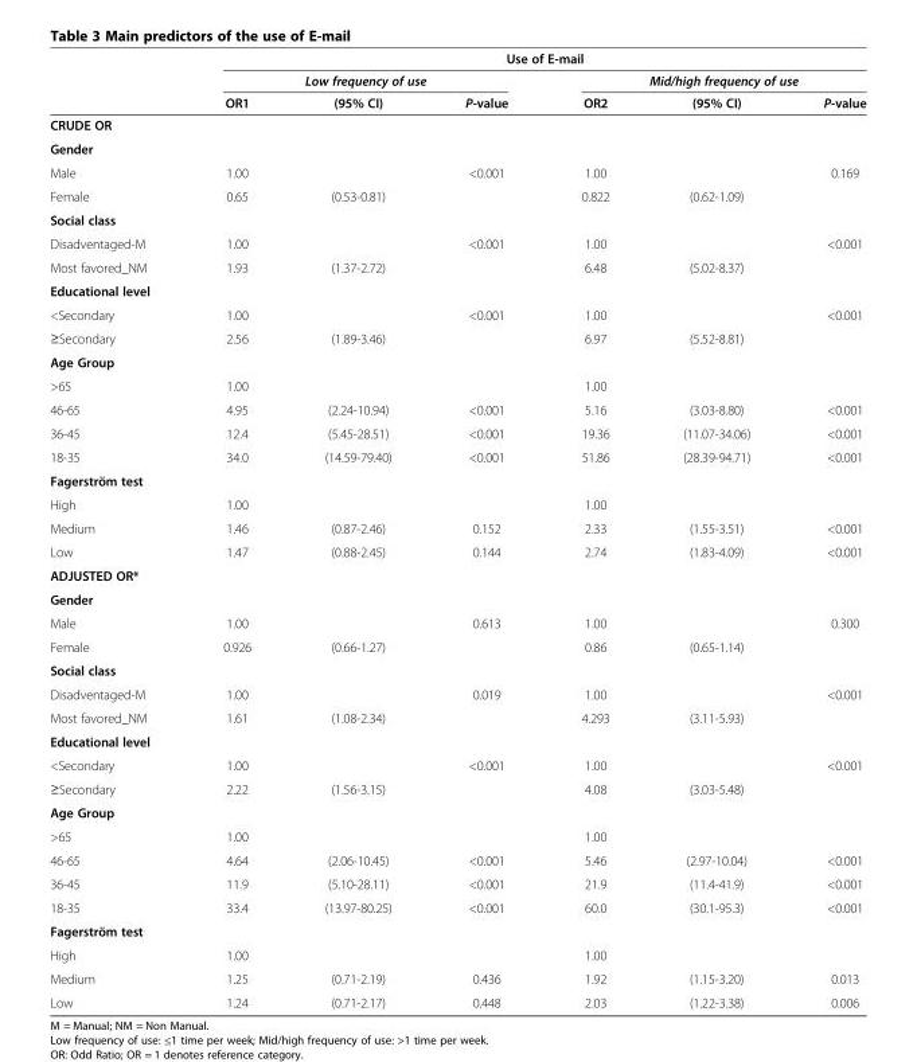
<table><thead><tr><td rowspan="3"></td><td colspan="6">Use of E-mail</td></tr><tr><td colspan="3">Low frequency of use</td><td colspan="3">Mid/high frequency of use</td></tr><tr><td>OR1</td><td>(95% CI)</td><td>P-value</td><td>OR2</td><td>(95% CI)</td><td>P-value</td></tr></thead><tbody><tr><td colspan="7">CRUDE OR</td></tr><tr><td colspan="7">Gender</td></tr><tr><td>Male</td><td>1.00</td><td></td><td>&lt;0.001</td><td>1.00</td><td></td><td>0.169</td></tr><tr><td>Female</td><td>0.65</td><td>(0.53-0.81)</td><td></td><td>0.822</td><td>(0.62-1.09)</td><td></td></tr><tr><td colspan="7">Social class</td></tr><tr><td>Disadventaged-M</td><td>1.00</td><td></td><td>&lt;0.001</td><td>1.00</td><td></td><td>&lt;0.001</td></tr><tr><td>Most favored_NM</td><td>1.93</td><td>(1.37-2.72)</td><td></td><td>6.48</td><td>(5.02-8.37)</td><td></td></tr><tr><td colspan="7">Educational level</td></tr><tr><td>&lt;Secondary</td><td>1.00</td><td></td><td>&lt;0.001</td><td>1.00</td><td></td><td>&lt;0.001</td></tr><tr><td>≥Secondary</td><td>2.56</td><td>(1.89-3.46)</td><td></td><td>6.97</td><td>(5.52-8.81)</td><td></td></tr><tr><td colspan="7">Age Group</td></tr><tr><td>&gt;65</td><td>1.00</td><td></td><td></td><td>1.00</td><td></td><td></td></tr><tr><td>46-65</td><td>4.95</td><td>(2.24-10.94)</td><td>&lt;0.001</td><td>5.16</td><td>(3.03-8.80)</td><td>&lt;0.001</td></tr><tr><td>36-45</td><td>12.4</td><td>(5.45-28.51)</td><td>&lt;0.001</td><td>19.36</td><td>(11.07-34.06)</td><td>&lt;0.001</td></tr><tr><td>18-35</td><td>34.0</td><td>(14.59-79.40)</td><td>&lt;0.001</td><td>51.86</td><td>(28.39-94.71)</td><td>&lt;0.001</td></tr><tr><td colspan="7">Fagerström test</td></tr><tr><td>High</td><td>1.00</td><td></td><td></td><td>1.00</td><td></td><td></td></tr><tr><td>Medium</td><td>1.46</td><td>(0.87-2.46)</td><td>0.152</td><td>2.33</td><td>(1.55-3.51)</td><td>&lt;0.001</td></tr><tr><td>Low</td><td>1.47</td><td>(0.88-2.45)</td><td>0.144</td><td>2.74</td><td>(1.83-4.09)</td><td>&lt;0.001</td></tr><tr><td colspan="7">ADJUSTED OR*</td></tr><tr><td colspan="7">Gender</td></tr><tr><td>Male</td><td>1.00</td><td></td><td>0.613</td><td>1.00</td><td></td><td>0.300</td></tr><tr><td>Female</td><td>0.926</td><td>(0.66-1.27)</td><td></td><td>0.86</td><td>(0.65-1.14)</td><td></td></tr><tr><td colspan="7">Social class</td></tr><tr><td>Disadventaged-M</td><td>1.00</td><td></td><td>0.019</td><td>1.00</td><td></td><td>&lt;0.001</td></tr><tr><td>Most favored_NM</td><td>1.61</td><td>(1.08-2.34)</td><td></td><td>4.293</td><td>(3.11-5.93)</td><td></td></tr><tr><td colspan="7">Educational level</td></tr><tr><td>&lt;Secondary</td><td>1.00</td><td></td><td>&lt;0.001</td><td>1.00</td><td></td><td>&lt;0.001</td></tr><tr><td>≥Secondary</td><td>2.22</td><td>(1.56-3.15)</td><td></td><td>4.08</td><td>(3.03-5.48)</td><td></td></tr><tr><td colspan="7">Age Group</td></tr><tr><td>&gt;65</td><td>1.00</td><td></td><td></td><td>1.00</td><td></td><td></td></tr><tr><td>46-65</td><td>4.64</td><td>(2.06-10.45)</td><td>&lt;0.001</td><td>5.46</td><td>(2.97-10.04)</td><td>&lt;0.001</td></tr><tr><td>36-45</td><td>11.9</td><td>(5.10-28.11)</td><td>&lt;0.001</td><td>21.9</td><td>(11.4-41.9)</td><td>&lt;0.001</td></tr><tr><td>18-35</td><td>33.4</td><td>(13.97-80.25)</td><td>&lt;0.001</td><td>60.0</td><td>(30.1-95.3)</td><td>&lt;0.001</td></tr><tr><td colspan="7">Fagerström test</td></tr><tr><td>High</td><td>1.00</td><td></td><td></td><td>1.00</td><td></td><td></td></tr><tr><td>Medium</td><td>1.25</td><td>(0.71-2.19)</td><td>0.436</td><td>1.92</td><td>(1.15-3.20)</td><td>0.013</td></tr><tr><td>Low</td><td>1.24</td><td>(0.71-2.17)</td><td>0.448</td><td>2.03</td><td>(1.22-3.38)</td><td>0.006</td></tr></tbody></table>